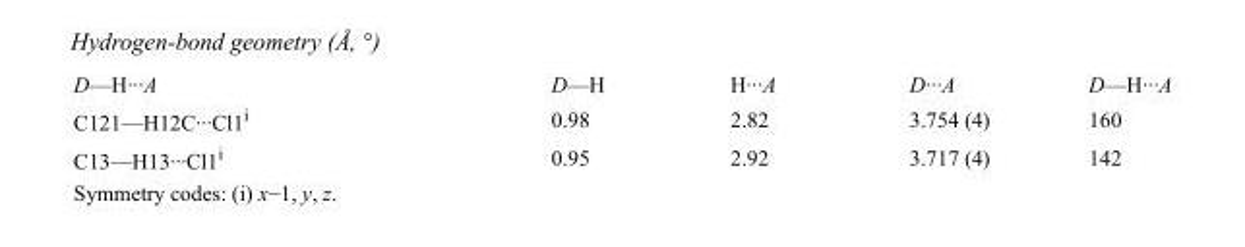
<table><tbody><tr><td>D—H···A</td><td>D—H</td><td>H···A</td><td>D···A</td><td>D—H···A</td></tr><tr><td>C121—H12C···Cl1<sup>i</sup></td><td>0.98</td><td>2.82</td><td>3.754 (4)</td><td>160</td></tr><tr><td>C13—H13···Cl1<sup>i</sup></td><td>0.95</td><td>2.92</td><td>3.717 (4)</td><td>142</td></tr></tbody></table>